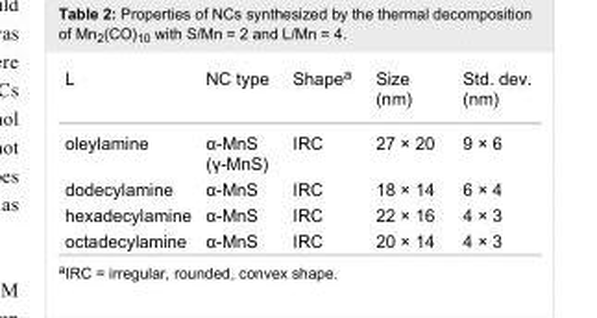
<table><tbody><tr><td>L</td><td>NC type</td><td>Shape<sup>a</sup></td><td>Size (nm)</td><td>Std. dev. (nm)</td></tr><tr><td>oleylamine</td><td>α-MnS (γ-MnS)</td><td>IRC</td><td>27 × 20</td><td>9 × 6</td></tr><tr><td>dodecylamine</td><td>α-MnS</td><td>IRC</td><td>18 × 14</td><td>6 × 4</td></tr><tr><td>hexadecylamine</td><td>α-MnS</td><td>IRC</td><td>22 × 16</td><td>4 × 3</td></tr><tr><td>octadecylamine</td><td>α-MnS</td><td>IRC</td><td>20 × 14</td><td>4 × 3</td></tr></tbody></table>